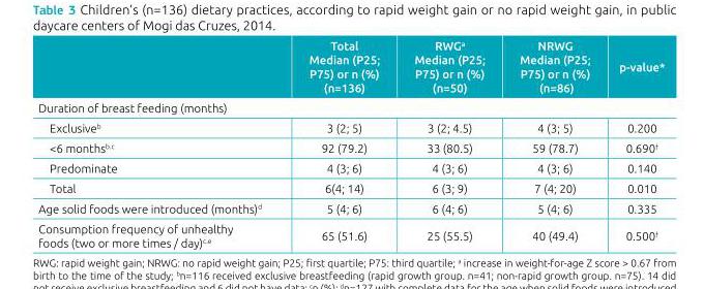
<table><thead><tr><td></td><td>Total Median (P25; P75) or n (%) (n=136)</td><td>RWG<sup>a</sup> Median (P25; P75) or n (%) (n=50)</td><td>NRWG Median (P25; P75) or n (%) (n=86)</td><td>p‑value*</td></tr></thead><tbody><tr><td colspan="5">Duration of breast feeding (months)</td></tr><tr><td>Exclusive<sup>b</sup></td><td>3 (2; 5)</td><td>3 (2; 4.5)</td><td>4 (3; 5)</td><td>0.200</td></tr><tr><td>&lt;6 months<sup>b.c</sup></td><td>92 (79.2)</td><td>33 (80.5)</td><td>59 (78.7)</td><td>0.690<sup>†</sup></td></tr><tr><td>Predominate</td><td>4 (3; 6)</td><td>4 (3; 6)</td><td>4 (3; 6)</td><td>0.140</td></tr><tr><td>Total</td><td>6(4; 14)</td><td>6 (3; 9)</td><td>7 (4; 20)</td><td>0.010</td></tr><tr><td>Age solid foods were introduced (months)<sup>d</sup></td><td>5 (4; 6)</td><td>6 (4; 6)</td><td>5 (4; 6)</td><td>0.335</td></tr><tr><td>Consumption frequency of unhealthy foods (two or more times / day)<sup>c.e</sup></td><td>65 (51.6)</td><td>25 (55.5)</td><td>40 (49.4)</td><td>0.500<sup>†</sup></td></tr></tbody></table>